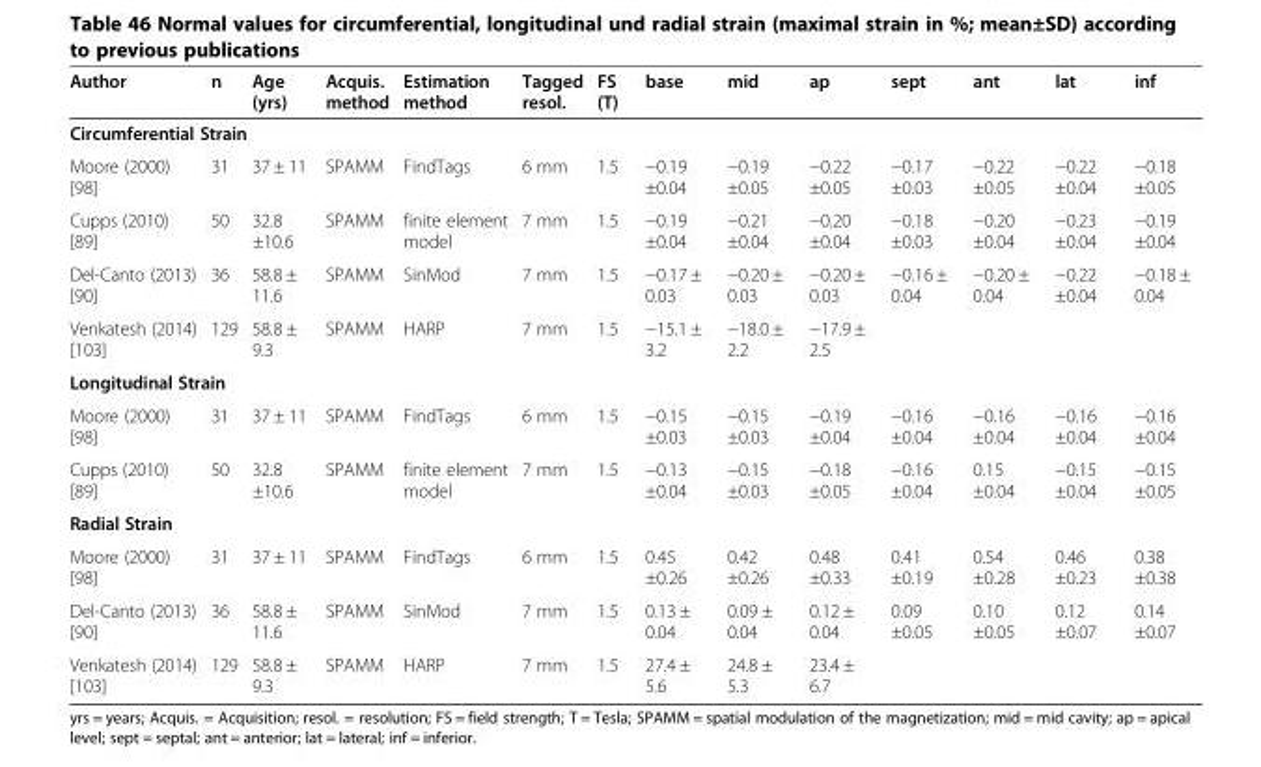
<table><thead><tr><td>Author</td><td>n</td><td>Age (yrs)</td><td>Acquis. method</td><td>Estimation method</td><td>Tagged resol.</td><td>FS (T)</td><td>base</td><td>mid</td><td>ap</td><td>sept</td><td>ant</td><td>lat</td><td>inf</td></tr></thead><tbody><tr><td colspan="14">Circumferential Strain</td></tr><tr><td>Moore (2000) [98]</td><td>31</td><td>37 ± 11</td><td>SPAMM</td><td>FindTags</td><td>6 mm</td><td>1.5</td><td>−0.19 ±0.04</td><td>−0.19 ±0.05</td><td>−0.22 ±0.05</td><td>−0.17 ±0.03</td><td>−0.22 ±0.05</td><td>−0.22 ±0.04</td><td>−0.18 ±0.05</td></tr><tr><td>Cupps (2010) [89]</td><td>50</td><td>32.8 ±10.6</td><td>SPAMM</td><td>finite element model</td><td>7 mm</td><td>1.5</td><td>−0.19 ±0.04</td><td>−0.21 ±0.04</td><td>−0.20 ±0.04</td><td>−0.18 ±0.03</td><td>−0.20 ±0.04</td><td>−0.23 ±0.04</td><td>−0.19 ±0.04</td></tr><tr><td>Del-Canto (2013) [90]</td><td>36</td><td>58.8 ± 11.6</td><td>SPAMM</td><td>SinMod</td><td>7 mm</td><td>1.5</td><td>−0.17 ± 0.03</td><td>−0.20 ± 0.03</td><td>−0.20 ± 0.03</td><td>−0.16 ± 0.04</td><td>−0.20 ± 0.04</td><td>−0.22 ±0.04</td><td>−0.18 ± 0.04</td></tr><tr><td>Venkatesh (2014) [103]</td><td>129</td><td>58.8 ± 9.3</td><td>SPAMM</td><td>HARP</td><td>7 mm</td><td>1.5</td><td>−15.1 ± 3.2</td><td>−18.0 ± 2.2</td><td>−17.9 ± 2.5</td><td></td><td></td><td></td><td></td></tr><tr><td colspan="14">Longitudinal Strain</td></tr><tr><td>Moore (2000) [98]</td><td>31</td><td>37 ± 11</td><td>SPAMM</td><td>FindTags</td><td>6 mm</td><td>1.5</td><td>−0.15 ±0.03</td><td>−0.15 ±0.03</td><td>−0.19 ±0.04</td><td>−0.16 ±0.04</td><td>−0.16 ±0.04</td><td>−0.16 ±0.04</td><td>−0.16 ±0.04</td></tr><tr><td>Cupps (2010) [89]</td><td>50</td><td>32.8 ±10.6</td><td>SPAMM</td><td>finite element model</td><td>7 mm</td><td>1.5</td><td>−0.13 ±0.04</td><td>−0.15 ±0.03</td><td>−0.18 ±0.05</td><td>−0.16 ±0.04</td><td>0.15 ±0.04</td><td>−0.15 ±0.04</td><td>−0.15 ±0.05</td></tr><tr><td colspan="14">Radial Strain</td></tr><tr><td>Moore (2000) [98]</td><td>31</td><td>37 ± 11</td><td>SPAMM</td><td>FindTags</td><td>6 mm</td><td>1.5</td><td>0.45 ±0.26</td><td>0.42 ±0.26</td><td>0.48 ±0.33</td><td>0.41 ±0.19</td><td>0.54 ±0.28</td><td>0.46 ±0.23</td><td>0.38 ±0.38</td></tr><tr><td>Del-Canto (2013) [90]</td><td>36</td><td>58.8 ± 11.6</td><td>SPAMM</td><td>SinMod</td><td>7 mm</td><td>1.5</td><td>0.13 ± 0.04</td><td>0.09 ± 0.04</td><td>0.12 ± 0.04</td><td>0.09 ±0.05</td><td>0.10 ±0.05</td><td>0.12 ±0.07</td><td>0.14 ±0.07</td></tr><tr><td>Venkatesh (2014) [103]</td><td>129</td><td>58.8 ± 9.3</td><td>SPAMM</td><td>HARP</td><td>7 mm</td><td>1.5</td><td>27.4 ± 5.6</td><td>24.8 ± 5.3</td><td>23.4 ± 6.7</td><td></td><td></td><td></td><td></td></tr></tbody></table>